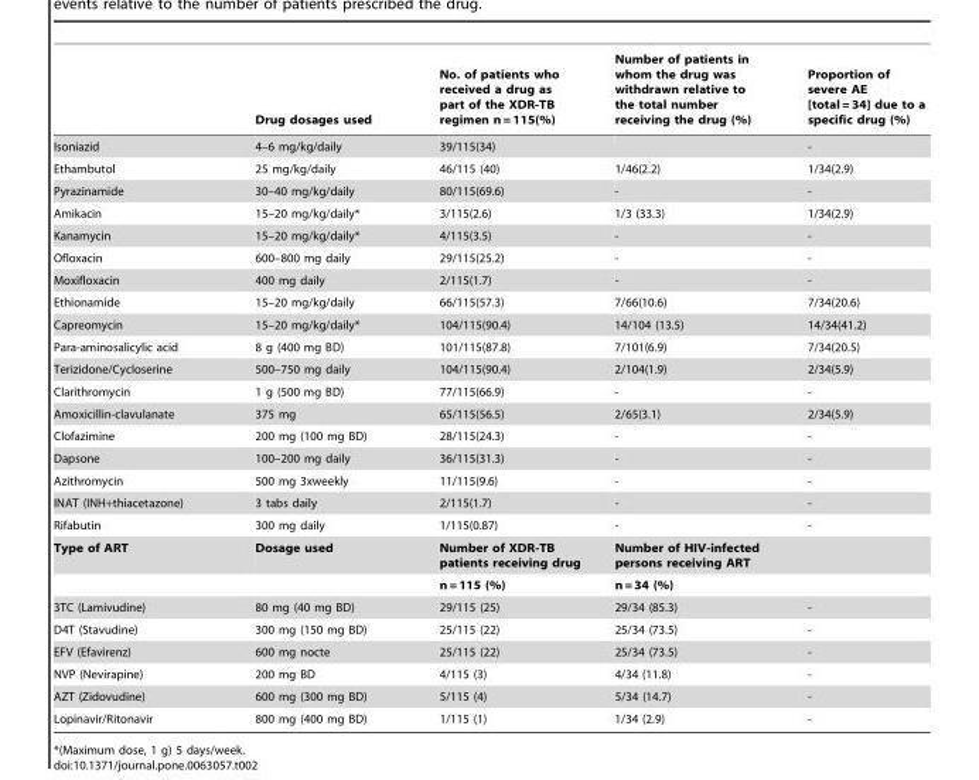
<table><thead><tr><td></td><td>Drug dosages used</td><td>No. of patients who received a drug as part of the XDR-TB regimen n = 115(%)</td><td>Number of patients in whom the drug was withdrawn relative to the total number receiving the drug (%)</td><td>Proportion of severe AE [total = 34] due to a specific drug (%)</td></tr></thead><tbody><tr><td>Isoniazid</td><td>4–6 mg/kg/daily</td><td>39/115(34)</td><td></td><td>-</td></tr><tr><td>Ethambutol</td><td>25 mg/kg/daily</td><td>46/115 (40)</td><td>1/46(2.2)</td><td>1/34(2.9)</td></tr><tr><td>Pyrazinamide</td><td>30–40 mg/kg/daily</td><td>80/115(69.6)</td><td>-</td><td>-</td></tr><tr><td>Amikacin</td><td>15–20 mg/kg/daily*</td><td>3/115(2.6)</td><td>1/3 (33.3)</td><td>1/34(2.9)</td></tr><tr><td>Kanamycin</td><td>15–20 mg/kg/daily*</td><td>4/115(3.5)</td><td>-</td><td>-</td></tr><tr><td>Ofloxacin</td><td>600–800 mg daily</td><td>29/115(25.2)</td><td>-</td><td>-</td></tr><tr><td>Moxifloxacin</td><td>400 mg daily</td><td>2/115(1.7)</td><td>-</td><td>-</td></tr><tr><td>Ethionamide</td><td>15–20 mg/kg/daily</td><td>66/115(57.3)</td><td>7/66(10.6)</td><td>7/34(20.6)</td></tr><tr><td>Capreomycin</td><td>15–20 mg/kg/daily*</td><td>104/115(90.4)</td><td>14/104 (13.5)</td><td>14/34(41.2)</td></tr><tr><td>Para-aminosalicylic acid</td><td>8 g (400 mg BD)</td><td>101/115(87.8)</td><td>7/101(6.9)</td><td>7/34(20.5)</td></tr><tr><td>Terizidone/Cycloserine</td><td>500–750 mg daily</td><td>104/115(90.4)</td><td>2/104(1.9)</td><td>2/34(5.9)</td></tr><tr><td>Clarithromycin</td><td>1 g (500 mg BD)</td><td>77/115(66.9)</td><td>-</td><td>-</td></tr><tr><td>Amoxicillin-clavulanate</td><td>375 mg</td><td>65/115(56.5)</td><td>2/65(3.1)</td><td>2/34(5.9)</td></tr><tr><td>Clofazimine</td><td>200 mg (100 mg BD)</td><td>28/115(24.3)</td><td>-</td><td>-</td></tr><tr><td>Dapsone</td><td>100–200 mg daily</td><td>36/115(31.3)</td><td>-</td><td>-</td></tr><tr><td>Azithromycin</td><td>500 mg 3xweekly</td><td>11/115(9.6)</td><td>-</td><td>-</td></tr><tr><td>INAT (INH+thiacetazone)</td><td>3 tabs daily</td><td>2/115(1.7)</td><td>-</td><td>-</td></tr><tr><td>Rifabutin</td><td>300 mg daily</td><td>1/115(0.87)</td><td>-</td><td>-</td></tr><tr><td rowspan="2">Type of ART</td><td>Dosage used</td><td>Number of XDR-TB patients receiving drug</td><td>Number of HIV-infected persons receiving ART</td><td></td></tr><tr><td></td><td>n = 115 (%)</td><td>n = 34 (%)</td><td></td></tr><tr><td>3TC (Lamivudine)</td><td>80 mg (40 mg BD)</td><td>29/115 (25)</td><td>29/34 (85.3)</td><td>-</td></tr><tr><td>D4T (Stavudine)</td><td>300 mg (150 mg BD)</td><td>25/115 (22)</td><td>25/34 (73.5)</td><td>-</td></tr><tr><td>EFV (Efavirenz)</td><td>600 mg nocte</td><td>25/115 (22)</td><td>25/34 (73.5)</td><td>-</td></tr><tr><td>NVP (Nevirapine)</td><td>200 mg BD</td><td>4/115 (3)</td><td>4/34 (11.8)</td><td>-</td></tr><tr><td>AZT (Zidovudine)</td><td>600 mg (300 mg BD)</td><td>5/115 (4)</td><td>5/34 (14.7)</td><td>-</td></tr><tr><td>Lopinavir/Ritonavir</td><td>800 mg (400 mg BD)</td><td>1/115 (1)</td><td>1/34 (2.9)</td><td>-</td></tr></tbody></table>